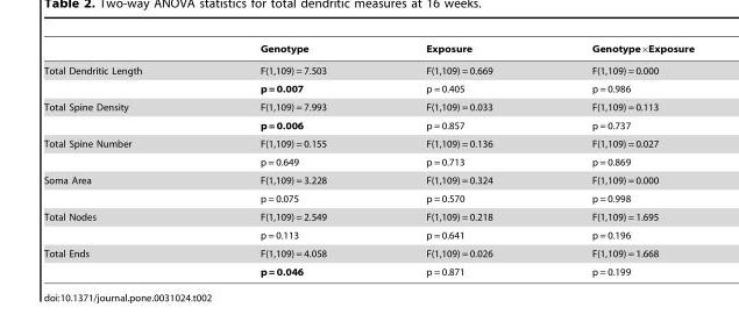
<table><thead><tr><td></td><td>Genotype</td><td>Exposure</td><td>Genotype×Exposure</td></tr></thead><tbody><tr><td rowspan="2">Total Dendritic Length</td><td>F(1,109) = 7.503</td><td>F(1,109) = 0.669</td><td>F(1,109) = 0.000</td></tr><tr><td>p = 0.007</td><td>p = 0.405</td><td>p = 0.986</td></tr><tr><td rowspan="2">Total Spine Density</td><td>F(1,109) = 7.993</td><td>F(1,109) = 0.033</td><td>F(1,109) = 0.113</td></tr><tr><td>p = 0.006</td><td>p = 0.857</td><td>p = 0.737</td></tr><tr><td rowspan="2">Total Spine Number</td><td>F(1,109) = 0.155</td><td>F(1,109) = 0.136</td><td>F(1,109) = 0.027</td></tr><tr><td>p = 0.649</td><td>p = 0.713</td><td>p = 0.869</td></tr><tr><td rowspan="2">Soma Area</td><td>F(1,109) = 3.228</td><td>F(1,109) = 0.324</td><td>F(1,109) = 0.000</td></tr><tr><td>p = 0.075</td><td>p = 0.570</td><td>p = 0.998</td></tr><tr><td rowspan="2">Total Nodes</td><td>F(1,109) = 2.549</td><td>F(1,109) = 0.218</td><td>F(1,109) = 1.695</td></tr><tr><td>p = 0.113</td><td>p = 0.641</td><td>p = 0.196</td></tr><tr><td rowspan="2">Total Ends</td><td>F(1,109) = 4.058</td><td>F(1,109) = 0.026</td><td>F(1,109) = 1.668</td></tr><tr><td>p = 0.046</td><td>p = 0.871</td><td>p = 0.199</td></tr></tbody></table>